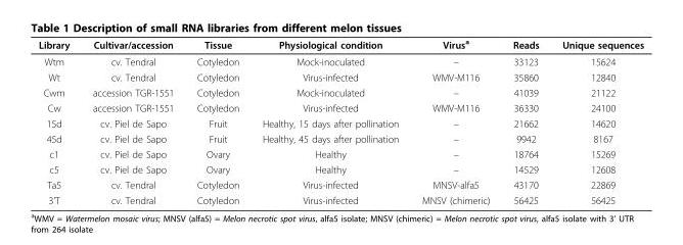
<table><thead><tr><td>Library</td><td>Cultivar/accession</td><td>Tissue</td><td>Physiological condition</td><td>Virus<sup>a</sup></td><td>Reads</td><td>Unique sequences</td></tr></thead><tbody><tr><td>Wtm</td><td>cv. Tendral</td><td>Cotyledon</td><td>Mock-inoculated</td><td>–</td><td>33123</td><td>15624</td></tr><tr><td>Wt</td><td>cv. Tendral</td><td>Cotyledon</td><td>Virus-infected</td><td>WMV-M116</td><td>35860</td><td>12840</td></tr><tr><td>Cwm</td><td>accession TGR-1551</td><td>Cotyledon</td><td>Mock-inoculated</td><td>–</td><td>41039</td><td>21122</td></tr><tr><td>Cw</td><td>accession TGR-1551</td><td>Cotyledon</td><td>Virus-infected</td><td>WMV-M116</td><td>36330</td><td>24100</td></tr><tr><td>15d</td><td>cv. Piel de Sapo</td><td>Fruit</td><td>Healthy, 15 days after pollination</td><td>–</td><td>21662</td><td>14620</td></tr><tr><td>45d</td><td>cv. Piel de Sapo</td><td>Fruit</td><td>Healthy, 45 days after pollination</td><td>–</td><td>9942</td><td>8167</td></tr><tr><td>c1</td><td>cv. Piel de Sapo</td><td>Ovary</td><td>Healthy</td><td>–</td><td>18764</td><td>15269</td></tr><tr><td>c5</td><td>cv. Piel de Sapo</td><td>Ovary</td><td>Healthy</td><td>–</td><td>14529</td><td>12608</td></tr><tr><td>Ta5</td><td>cv. Tendral</td><td>Cotyledon</td><td>Virus-infected</td><td>MNSV-alfa5</td><td>43170</td><td>22869</td></tr><tr><td>3’T</td><td>cv. Tendral</td><td>Cotyledon</td><td>Virus-infected</td><td>MNSV (chimeric)</td><td>56425</td><td>56425</td></tr></tbody></table>